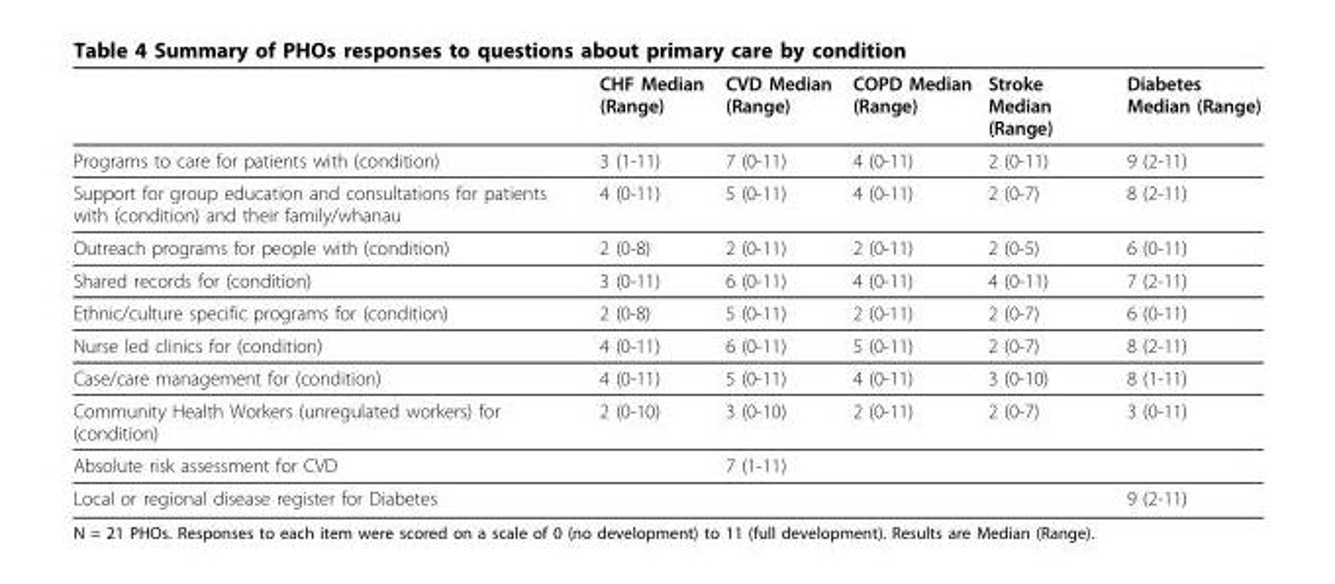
<table><thead><tr><td></td><td>CHF Median (Range)</td><td>CVD Median (Range)</td><td>COPD Median (Range)</td><td>Stroke Median (Range)</td><td>Diabetes Median (Range)</td></tr></thead><tbody><tr><td>Programs to care for patients with (condition)</td><td>3 (1-11)</td><td>7 (0-11)</td><td>4 (0-11)</td><td>2 (0-11)</td><td>9 (2-11)</td></tr><tr><td>Support for group education and consultations for patients with (condition) and their family/whanau</td><td>4 (0-11)</td><td>5 (0-11)</td><td>4 (0-11)</td><td>2 (0-7)</td><td>8 (2-11)</td></tr><tr><td>Outreach programs for people with (condition)</td><td>2 (0-8)</td><td>2 (0-11)</td><td>2 (0-11)</td><td>2 (0-5)</td><td>6 (0-11)</td></tr><tr><td>Shared records for (condition)</td><td>3 (0-11)</td><td>6 (0-11)</td><td>4 (0-11)</td><td>4 (0-11)</td><td>7 (2-11)</td></tr><tr><td>Ethnic/culture specific programs for (condition)</td><td>2 (0-8)</td><td>5 (0-11)</td><td>2 (0-11)</td><td>2 (0-7)</td><td>6 (0-11)</td></tr><tr><td>Nurse led clinics for (condition)</td><td>4 (0-11)</td><td>6 (0-11)</td><td>5 (0-11)</td><td>2 (0-7)</td><td>8 (2-11)</td></tr><tr><td>Case/care management for (condition)</td><td>4 (0-11)</td><td>5 (0-11)</td><td>4 (0-11)</td><td>3 (0-10)</td><td>8 (1-11)</td></tr><tr><td>Community Health Workers (unregulated workers) for (condition)</td><td>2 (0-10)</td><td>3 (0-10)</td><td>2 (0-11)</td><td>2 (0-7)</td><td>3 (0-11)</td></tr><tr><td>Absolute risk assessment for CVD</td><td></td><td>7 (1-11)</td><td></td><td></td><td></td></tr><tr><td>Local or regional disease register for Diabetes</td><td></td><td></td><td></td><td></td><td>9 (2-11)</td></tr></tbody></table>